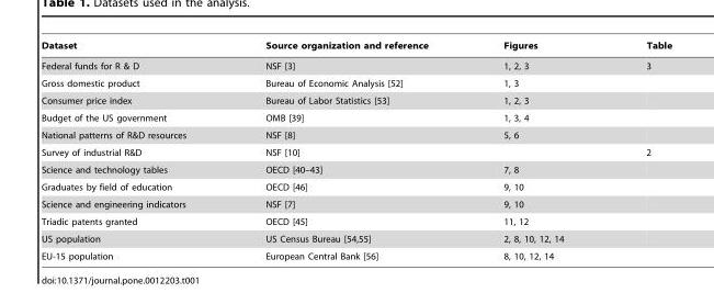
<table><thead><tr><td>Dataset</td><td>Source organization and reference</td><td>Figures</td><td>Table</td></tr></thead><tbody><tr><td>Federal funds for R &amp; D</td><td>NSF [3]</td><td>1, 2, 3</td><td>3</td></tr><tr><td>Gross domestic product</td><td>Bureau of Economic Analysis [52]</td><td>1, 3</td><td></td></tr><tr><td>Consumer price index</td><td>Bureau of Labor Statistics [53]</td><td>1, 2, 3</td><td></td></tr><tr><td>Budget of the US government</td><td>OMB [39]</td><td>1, 3, 4</td><td></td></tr><tr><td>National patterns of R&amp;D resources</td><td>NSF [8]</td><td>5, 6</td><td></td></tr><tr><td>Survey of industrial R&amp;D</td><td>NSF [10]</td><td></td><td>2</td></tr><tr><td>Science and technology tables</td><td>OECD [40–43]</td><td>7, 8</td><td></td></tr><tr><td>Graduates by field of education</td><td>OECD [46]</td><td>9, 10</td><td></td></tr><tr><td>Science and engineering indicators</td><td>NSF [7]</td><td>9, 10</td><td></td></tr><tr><td>Triadic patents granted</td><td>OECD [45]</td><td>11, 12</td><td></td></tr><tr><td>US population</td><td>US Census Bureau [54,55]</td><td>2, 8, 10, 12, 14</td><td></td></tr><tr><td>EU-15 population</td><td>European Central Bank [56]</td><td>8, 10, 12, 14</td><td></td></tr></tbody></table>